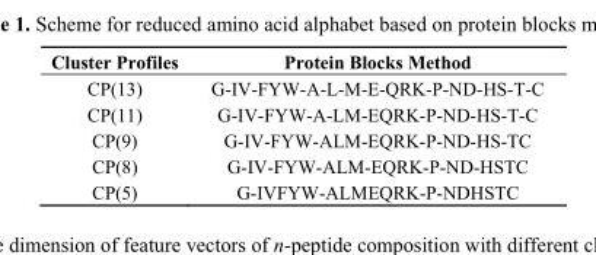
<table><thead><tr><td>Cluster Profiles</td><td>Protein Blocks Method</td></tr></thead><tbody><tr><td>CP(13)</td><td>G-IV-FYW-A-L-M-E-QRK-P-ND-HS-T-C</td></tr><tr><td>CP(11)</td><td>G-IV-FYW-A-LM-EQRK-P-ND-HS-T-C</td></tr><tr><td>CP(9)</td><td>G-IV-FYW-ALM-EQRK-P-ND-HS-TC</td></tr><tr><td>CP(8)</td><td>G-IV-FYW-ALM-EQRK-P-ND-HSTC</td></tr><tr><td>CP(5)</td><td>G-IVFYW-ALMEQRK-P-NDHSTC</td></tr></tbody></table>